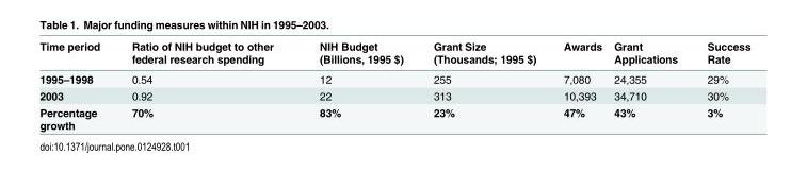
<table><thead><tr><td>Time period</td><td>Ratio of NIH budget to other federal research spending</td><td>NIH Budget (Billions, 1995 $)</td><td>Grant Size (Thousands; 1995 $)</td><td>Awards</td><td>Grant Applications</td><td>Success Rate</td></tr></thead><tbody><tr><td>1995–1998</td><td>0.54</td><td>12</td><td>255</td><td>7,080</td><td>24,355</td><td>29%</td></tr><tr><td>2003</td><td>0.92</td><td>22</td><td>313</td><td>10,393</td><td>34,710</td><td>30%</td></tr><tr><td>Percentage growth</td><td>70%</td><td>83%</td><td>23%</td><td>47%</td><td>43%</td><td>3%</td></tr></tbody></table>